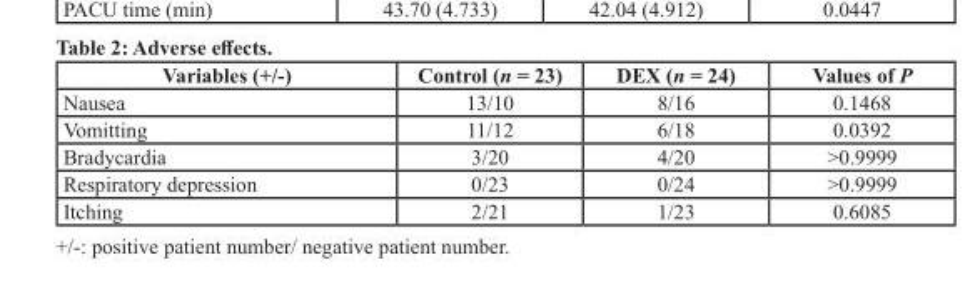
<table><thead><tr><td>Variables (+/-)</td><td>Control (n = 23)</td><td>DEX (n = 24)</td><td>Values of P</td></tr></thead><tbody><tr><td>Nausea</td><td>13/10</td><td>8/16</td><td>0.1468</td></tr><tr><td>Vomitting</td><td>11/12</td><td>6/18</td><td>0.0392</td></tr><tr><td>Bradycardia</td><td>3/20</td><td>4/20</td><td>&gt;0.9999</td></tr><tr><td>Respiratory depression</td><td>0/23</td><td>0/24</td><td>&gt;0.9999</td></tr><tr><td>Itching</td><td>2/21</td><td>1/23</td><td>0.6085</td></tr></tbody></table>